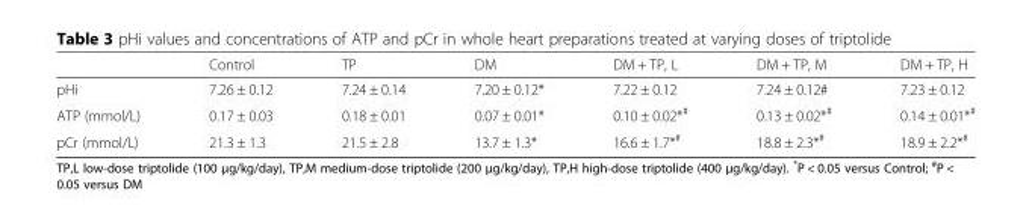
<table><thead><tr><td></td><td>Control</td><td>TP</td><td>DM</td><td>DM + TP, L</td><td>DM + TP, M</td><td>DM + TP, H</td></tr></thead><tbody><tr><td>pHi</td><td>7.26 ± 0.12</td><td>7.24 ± 0.14</td><td>7.20 ± 0.12*</td><td>7.22 ± 0.12</td><td>7.24 ± 0.12#</td><td>7.23 ± 0.12</td></tr><tr><td>ATP (mmol/L)</td><td>0.17 ± 0.03</td><td>0.18 ± 0.01</td><td>0.07 ± 0.01*</td><td>0.10 ± 0.02*<sup>#</sup></td><td>0.13 ± 0.02*<sup>#</sup></td><td>0.14 ± 0.01*<sup>#</sup></td></tr><tr><td>pCr (mmol/L)</td><td>21.3 ± 1.3</td><td>21.5 ± 2.8</td><td>13.7 ± 1.3*</td><td>16.6 ± 1.7*<sup>#</sup></td><td>18.8 ± 2.3*<sup>#</sup></td><td>18.9 ± 2.2*<sup>#</sup></td></tr></tbody></table>